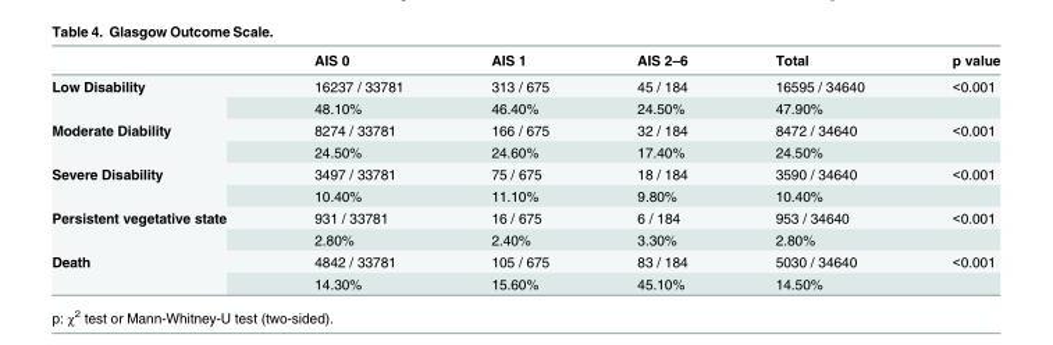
<table><thead><tr><td></td><td>AIS 0</td><td>AIS 1</td><td>AIS 2–6</td><td>Total</td><td>p value</td></tr></thead><tbody><tr><td rowspan="2">Low Disability</td><td>16237 / 33781</td><td>313 / 675</td><td>45 / 184</td><td>16595 / 34640</td><td>&lt;0.001</td></tr><tr><td>48.10%</td><td>46.40%</td><td>24.50%</td><td>47.90%</td><td></td></tr><tr><td rowspan="2">Moderate Diability</td><td>8274 / 33781</td><td>166 / 675</td><td>32 / 184</td><td>8472 / 34640</td><td>&lt;0.001</td></tr><tr><td>24.50%</td><td>24.60%</td><td>17.40%</td><td>24.50%</td><td></td></tr><tr><td rowspan="2">Severe Disability</td><td>3497 / 33781</td><td>75 / 675</td><td>18 / 184</td><td>3590 / 34640</td><td>&lt;0.001</td></tr><tr><td>10.40%</td><td>11.10%</td><td>9.80%</td><td>10.40%</td><td></td></tr><tr><td rowspan="2">Persistent vegetative state</td><td>931 / 33781</td><td>16 / 675</td><td>6 / 184</td><td>953 / 34640</td><td>&lt;0.001</td></tr><tr><td>2.80%</td><td>2.40%</td><td>3.30%</td><td>2.80%</td><td></td></tr><tr><td rowspan="2">Death</td><td>4842 / 33781</td><td>105 / 675</td><td>83 / 184</td><td>5030 / 34640</td><td>&lt;0.001</td></tr><tr><td>14.30%</td><td>15.60%</td><td>45.10%</td><td>14.50%</td><td></td></tr></tbody></table>